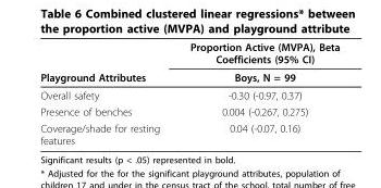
<table><thead><tr><td rowspan="2">Playground Attributes</td><td rowspan="2">Proportion Active (MVPA), Beta Coefficients (95% CI) Boys, N = 99</td></tr><tr></tr></thead><tbody><tr><td>Overall safety</td><td>-0.30 (-0.97, 0.37)</td></tr><tr><td>Presence of benches</td><td>0.004 (-0.267, 0.275)</td></tr><tr><td>Coverage/shade for resting features</td><td>0.04 (-0.07, 0.16)</td></tr></tbody></table>